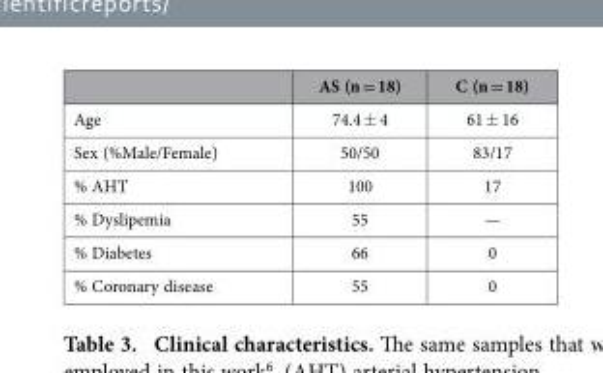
<table><thead><tr><td></td><td>AS (n = 18)</td><td>C (n = 18)</td></tr></thead><tbody><tr><td>Age</td><td>74.4 ± 4</td><td>61 ± 16</td></tr><tr><td>Sex (%Male/Female)</td><td>50/50</td><td>83/17</td></tr><tr><td>% AHT</td><td>100</td><td>17</td></tr><tr><td>% Dyslipemia</td><td>55</td><td>—</td></tr><tr><td>% Diabetes</td><td>66</td><td>0</td></tr><tr><td>% Coronary disease</td><td>55</td><td>0</td></tr></tbody></table>